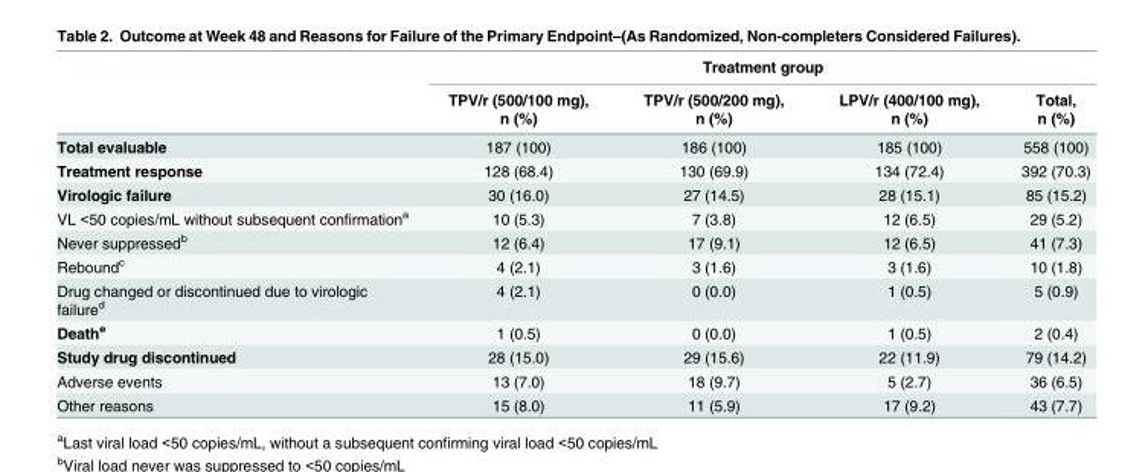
<table><thead><tr><td rowspan="2"></td><td colspan="4">Treatment group</td></tr><tr><td>TPV/r (500/100 mg), n (%)</td><td>TPV/r (500/200 mg), n (%)</td><td>LPV/r (400/100 mg), n (%)</td><td>Total, n (%)</td></tr></thead><tbody><tr><td>Total evaluable</td><td>187 (100)</td><td>186 (100)</td><td>185 (100)</td><td>558 (100)</td></tr><tr><td>Treatment response</td><td>128 (68.4)</td><td>130 (69.9)</td><td>134 (72.4)</td><td>392 (70.3)</td></tr><tr><td>Virologic failure</td><td>30 (16.0)</td><td>27 (14.5)</td><td>28 (15.1)</td><td>85 (15.2)</td></tr><tr><td>VL &lt;50 copies/mL without subsequent confirmation<sup>a</sup></td><td>10 (5.3)</td><td>7 (3.8)</td><td>12 (6.5)</td><td>29 (5.2)</td></tr><tr><td>Never suppressed<sup>b</sup></td><td>12 (6.4)</td><td>17 (9.1)</td><td>12 (6.5)</td><td>41 (7.3)</td></tr><tr><td>Rebound<sup>c</sup></td><td>4 (2.1)</td><td>3 (1.6)</td><td>3 (1.6)</td><td>10 (1.8)</td></tr><tr><td>Drug changed or discontinued due to virologic failure<sup>d</sup></td><td>4 (2.1)</td><td>0 (0.0)</td><td>1 (0.5)</td><td>5 (0.9)</td></tr><tr><td>Death<sup>e</sup></td><td>1 (0.5)</td><td>0 (0.0)</td><td>1 (0.5)</td><td>2 (0.4)</td></tr><tr><td>Study drug discontinued</td><td>28 (15.0)</td><td>29 (15.6)</td><td>22 (11.9)</td><td>79 (14.2)</td></tr><tr><td>Adverse events</td><td>13 (7.0)</td><td>18 (9.7)</td><td>5 (2.7)</td><td>36 (6.5)</td></tr><tr><td>Other reasons</td><td>15 (8.0)</td><td>11 (5.9)</td><td>17 (9.2)</td><td>43 (7.7)</td></tr></tbody></table>